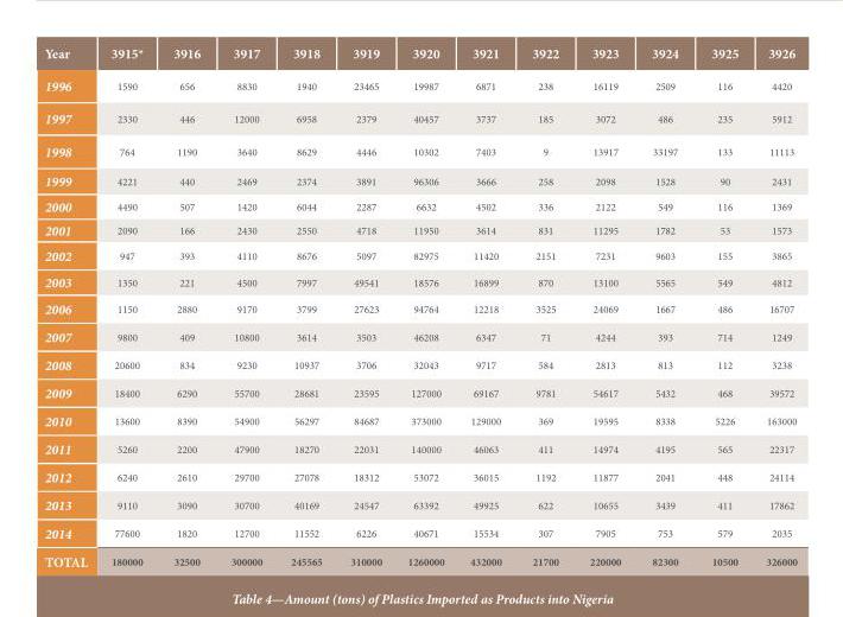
<table><thead><tr><td>Year</td><td>3915*</td><td>3916</td><td>3917</td><td>3918</td><td>3919</td><td>3920</td><td>3921</td><td>3922</td><td>3923</td><td>3924</td><td>3925</td><td>3926</td></tr></thead><tbody><tr><td>1996</td><td>1590</td><td>656</td><td>8830</td><td>1940</td><td>23465</td><td>19987</td><td>6871</td><td>238</td><td>16119</td><td>2509</td><td>116</td><td>4420</td></tr><tr><td>1997</td><td>2330</td><td>446</td><td>12000</td><td>6958</td><td>2379</td><td>40457</td><td>3737</td><td>185</td><td>3072</td><td>486</td><td>235</td><td>5912</td></tr><tr><td>1998</td><td>764</td><td>1190</td><td>3640</td><td>8629</td><td>4446</td><td>10302</td><td>7403</td><td>9</td><td>13917</td><td>33197</td><td>133</td><td>11113</td></tr><tr><td>1999</td><td>4221</td><td>440</td><td>2469</td><td>2374</td><td>3891</td><td>96306</td><td>3666</td><td>258</td><td>2098</td><td>1528</td><td>90</td><td>2431</td></tr><tr><td>2000</td><td>4490</td><td>507</td><td>1420</td><td>6044</td><td>2287</td><td>6632</td><td>4502</td><td>336</td><td>2122</td><td>549</td><td>116</td><td>1369</td></tr><tr><td>2001</td><td>2090</td><td>166</td><td>2430</td><td>2550</td><td>4718</td><td>11950</td><td>3614</td><td>831</td><td>11295</td><td>1782</td><td>53</td><td>1573</td></tr><tr><td>2002</td><td>947</td><td>393</td><td>4110</td><td>8676</td><td>5097</td><td>82975</td><td>11420</td><td>2151</td><td>7231</td><td>9603</td><td>155</td><td>3865</td></tr><tr><td>2003</td><td>1350</td><td>221</td><td>4500</td><td>7997</td><td>49541</td><td>18576</td><td>16899</td><td>870</td><td>13100</td><td>5565</td><td>549</td><td>4812</td></tr><tr><td>2006</td><td>1150</td><td>2880</td><td>9170</td><td>3799</td><td>27623</td><td>94764</td><td>12218</td><td>3525</td><td>24069</td><td>1667</td><td>486</td><td>16707</td></tr><tr><td>2007</td><td>9800</td><td>409</td><td>10800</td><td>3614</td><td>3503</td><td>46208</td><td>6347</td><td>71</td><td>4244</td><td>393</td><td>714</td><td>1249</td></tr><tr><td>2008</td><td>20600</td><td>834</td><td>9230</td><td>10937</td><td>3706</td><td>32043</td><td>9717</td><td>584</td><td>2813</td><td>813</td><td>112</td><td>3238</td></tr><tr><td>2009</td><td>18400</td><td>6290</td><td>55700</td><td>28681</td><td>23595</td><td>127000</td><td>69167</td><td>9781</td><td>54617</td><td>5432</td><td>468</td><td>39572</td></tr><tr><td>2010</td><td>13600</td><td>8390</td><td>54900</td><td>56297</td><td>84687</td><td>373000</td><td>129000</td><td>369</td><td>19595</td><td>8338</td><td>5226</td><td>163000</td></tr><tr><td>2011</td><td>5260</td><td>2200</td><td>47900</td><td>18270</td><td>22031</td><td>140000</td><td>46063</td><td>411</td><td>14974</td><td>4195</td><td>565</td><td>22317</td></tr><tr><td>2012</td><td>6240</td><td>2610</td><td>29700</td><td>27078</td><td>18312</td><td>53072</td><td>36015</td><td>1192</td><td>11877</td><td>2041</td><td>448</td><td>24114</td></tr><tr><td>2013</td><td>9110</td><td>3090</td><td>30700</td><td>40169</td><td>24547</td><td>63392</td><td>49925</td><td>622</td><td>10655</td><td>3439</td><td>411</td><td>17862</td></tr><tr><td>2014</td><td>77600</td><td>1820</td><td>12700</td><td>11552</td><td>6226</td><td>40671</td><td>15534</td><td>307</td><td>7905</td><td>753</td><td>579</td><td>2035</td></tr><tr><td>TOTAL</td><td>180000</td><td>32500</td><td>300000</td><td>245565</td><td>310000</td><td>1260000</td><td>432000</td><td>21700</td><td>220000</td><td>82300</td><td>10500</td><td>326000</td></tr></tbody></table>